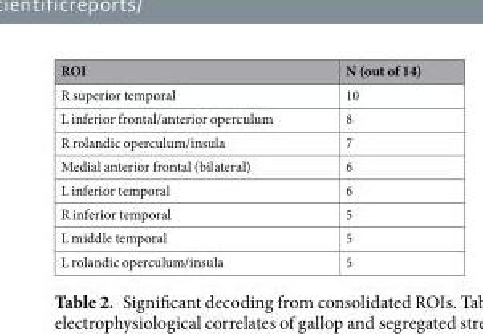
<table><thead><tr><td>ROI</td><td>N (out of 14)</td></tr></thead><tbody><tr><td>R superior temporal</td><td>10</td></tr><tr><td>L inferior frontal/anterior operculum</td><td>8</td></tr><tr><td>R rolandic operculum/insula</td><td>7</td></tr><tr><td>Medial anterior frontal (bilateral)</td><td>6</td></tr><tr><td>L inferior temporal</td><td>6</td></tr><tr><td>R inferior temporal</td><td>5</td></tr><tr><td>L middle temporal</td><td>5</td></tr><tr><td>L rolandic operculum/insula</td><td>5</td></tr></tbody></table>